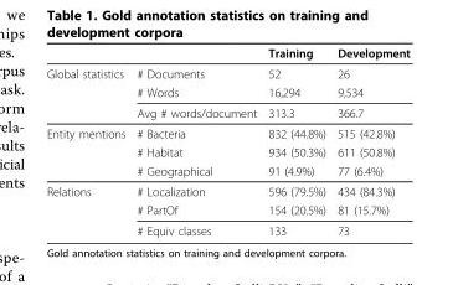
<table><thead><tr><td></td><td></td><td>Training</td><td>Development</td></tr></thead><tbody><tr><td rowspan="3">Global statistics</td><td># Documents</td><td>52</td><td>26</td></tr><tr><td># Words</td><td>16,294</td><td>9,534</td></tr><tr><td>Avg # words/document</td><td>313.3</td><td>366.7</td></tr><tr><td rowspan="3">Entity mentions</td><td># Bacteria</td><td>832 (44.8%)</td><td>515 (42.8%)</td></tr><tr><td># Habitat</td><td>934 (50.3%)</td><td>611 (50.8%)</td></tr><tr><td># Geographical</td><td>91 (4.9%)</td><td>77 (6.4%)</td></tr><tr><td rowspan="3">Relations</td><td># Localization</td><td>596 (79.5%)</td><td>434 (84.3%)</td></tr><tr><td># PartOf</td><td>154 (20.5%)</td><td>81 (15.7%)</td></tr><tr><td># Equiv classes</td><td>133</td><td>73</td></tr></tbody></table>